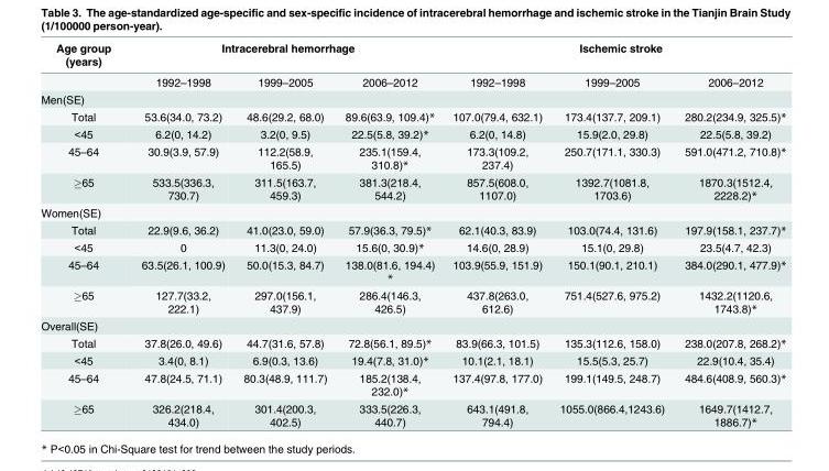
<table><thead><tr><td rowspan="2">Age group (years)</td><td colspan="3">Intracerebral hemorrhage</td><td colspan="3">Ischemic stroke</td></tr><tr><td>1992–1998</td><td>1999–2005</td><td>2006–2012</td><td>1992–1998</td><td>1999–2005</td><td>2006–2012</td></tr></thead><tbody><tr><td colspan="7">Men(SE)</td></tr><tr><td>Total</td><td>53.6(34.0, 73.2)</td><td>48.6(29.2, 68.0)</td><td>89.6(63.9, 109.4)*</td><td>107.0(79.4, 632.1)</td><td>173.4(137.7, 209.1)</td><td>280.2(234.9, 325.5)*</td></tr><tr><td>&lt;45</td><td>6.2(0, 14.2)</td><td>3.2(0, 9.5)</td><td>22.5(5.8, 39.2)*</td><td>6.2(0, 14.8)</td><td>15.9(2.0, 29.8)</td><td>22.5(5.8, 39.2)</td></tr><tr><td>45–64</td><td>30.9(3.9, 57.9)</td><td>112.2(58.9, 165.5)</td><td>235.1(159.4, 310.8)*</td><td>173.3(109.2, 237.4)</td><td>250.7(171.1, 330.3)</td><td>591.0(471.2, 710.8)*</td></tr><tr><td>≥65</td><td>533.5(336.3, 730.7)</td><td>311.5(163.7, 459.3)</td><td>381.3(218.4, 544.2)</td><td>857.5(608.0, 1107.0)</td><td>1392.7(1081.8, 1703.6)</td><td>1870.3(1512.4, 2228.2)*</td></tr><tr><td colspan="7">Women(SE)</td></tr><tr><td>Total</td><td>22.9(9.6, 36.2)</td><td>41.0(23.0, 59.0)</td><td>57.9(36.3, 79.5)*</td><td>62.1(40.3, 83.9)</td><td>103.0(74.4, 131.6)</td><td>197.9(158.1, 237.7)*</td></tr><tr><td>&lt;45</td><td>0</td><td>11.3(0, 24.0)</td><td>15.6(0, 30.9)*</td><td>14.6(0, 28.9)</td><td>15.1(0, 29.8)</td><td>23.5(4.7, 42.3)</td></tr><tr><td>45–64</td><td>63.5(26.1, 100.9)</td><td>50.0(15.3, 84.7)</td><td>138.0(81.6, 194.4) *</td><td>103.9(55.9, 151.9)</td><td>150.1(90.1, 210.1)</td><td>384.0(290.1, 477.9)*</td></tr><tr><td>≥65</td><td>127.7(33.2, 222.1)</td><td>297.0(156.1, 437.9)</td><td>286.4(146.3, 426.5)</td><td>437.8(263.0, 612.6)</td><td>751.4(527.6, 975.2)</td><td>1432.2(1120.6, 1743.8)*</td></tr><tr><td colspan="7">Overall(SE)</td></tr><tr><td>Total</td><td>37.8(26.0, 49.6)</td><td>44.7(31.6, 57.8)</td><td>72.8(56.1, 89.5)*</td><td>83.9(66.3, 101.5)</td><td>135.3(112.6, 158.0)</td><td>238.0(207.8, 268.2)*</td></tr><tr><td>&lt;45</td><td>3.4(0, 8.1)</td><td>6.9(0.3, 13.6)</td><td>19.4(7.8, 31.0)*</td><td>10.1(2.1, 18.1)</td><td>15.5(5.3, 25.7)</td><td>22.9(10.4, 35.4)</td></tr><tr><td>45–64</td><td>47.8(24.5, 71.1)</td><td>80.3(48.9, 111.7)</td><td>185.2(138.4, 232.0)*</td><td>137.4(97.8, 177.0)</td><td>199.1(149.5, 248.7)</td><td>484.6(408.9, 560.3)*</td></tr><tr><td>≥65</td><td>326.2(218.4, 434.0)</td><td>301.4(200.3, 402.5)</td><td>333.5(226.3, 440.7)</td><td>643.1(491.8, 794.4)</td><td>1055.0(866.4,1243.6)</td><td>1649.7(1412.7, 1886.7)*</td></tr></tbody></table>